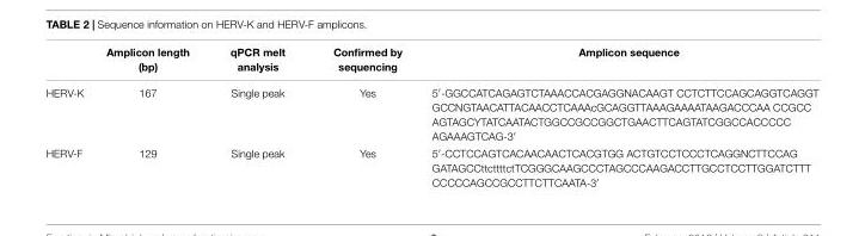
<table><thead><tr><td></td><td>Amplicon length (bp)</td><td>qPCR melt analysis</td><td>Confirmed by sequencing</td><td>Amplicon sequence</td></tr></thead><tbody><tr><td>HERV-K</td><td>167</td><td>Single peak</td><td>Yes</td><td>5′-GGCCATCAGAGTCTAAACCACGAGGNACAAGT CCTCTTCCAGCAGGTCAGGT GCCNGTAACATTACAACCTCAAAcGCAGGTTAAAGAAAATAAGACCCAA CCGCC AGTAGCYTATCAATACTGGCCGCCGGCTGAACTTCAGTATCGGCCACCCCC AGAAAGTCAG-3′</td></tr><tr><td>HERV-F</td><td>129</td><td>Single peak</td><td>Yes</td><td>5′-CCTCCAGTCACAACAACTCACGTGG ACTGTCCTCCCTCAGGNCTTCCAG GATAGCCttcttttctTCGGGCAAGCCCTAGCCCAAGACCTTGCCTCCTTGGATCTTT CCCCCAGCCGCCTTCTTCAATA-3′</td></tr></tbody></table>